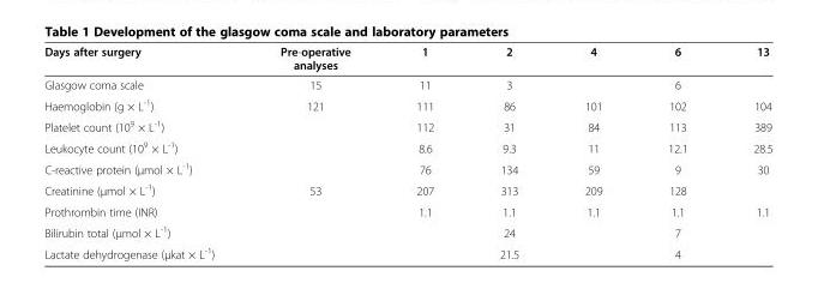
<table><thead><tr><td>Days after surgery</td><td>Pre-operative analyses</td><td>1</td><td>2</td><td>4</td><td>6</td><td>13</td></tr></thead><tbody><tr><td>Glasgow coma scale</td><td>15</td><td>11</td><td>3</td><td></td><td>6</td><td></td></tr><tr><td>Haemoglobin (g × L<sup>-1</sup>)</td><td>121</td><td>111</td><td>86</td><td>101</td><td>102</td><td>104</td></tr><tr><td>Platelet count (10<sup>9</sup> × L<sup>-1</sup>)</td><td></td><td>112</td><td>31</td><td>84</td><td>113</td><td>389</td></tr><tr><td>Leukocyte count (10<sup>9</sup> × L<sup>-1</sup>)</td><td></td><td>8.6</td><td>9.3</td><td>11</td><td>12.1</td><td>28.5</td></tr><tr><td>C-reactive protein (μmol × L<sup>-1</sup>)</td><td></td><td>76</td><td>134</td><td>59</td><td>9</td><td>30</td></tr><tr><td>Creatinine (μmol × L<sup>-1</sup>)</td><td>53</td><td>207</td><td>313</td><td>209</td><td>128</td><td></td></tr><tr><td>Prothrombin time (INR)</td><td></td><td>1.1</td><td>1.1</td><td>1.1</td><td>1.1</td><td>1.1</td></tr><tr><td>Bilirubin total (μmol × L<sup>-1</sup>)</td><td></td><td></td><td>24</td><td></td><td>7</td><td></td></tr><tr><td>Lactate dehydrogenase (μkat × L<sup>-1</sup>)</td><td></td><td></td><td>21.5</td><td></td><td>4</td><td></td></tr></tbody></table>